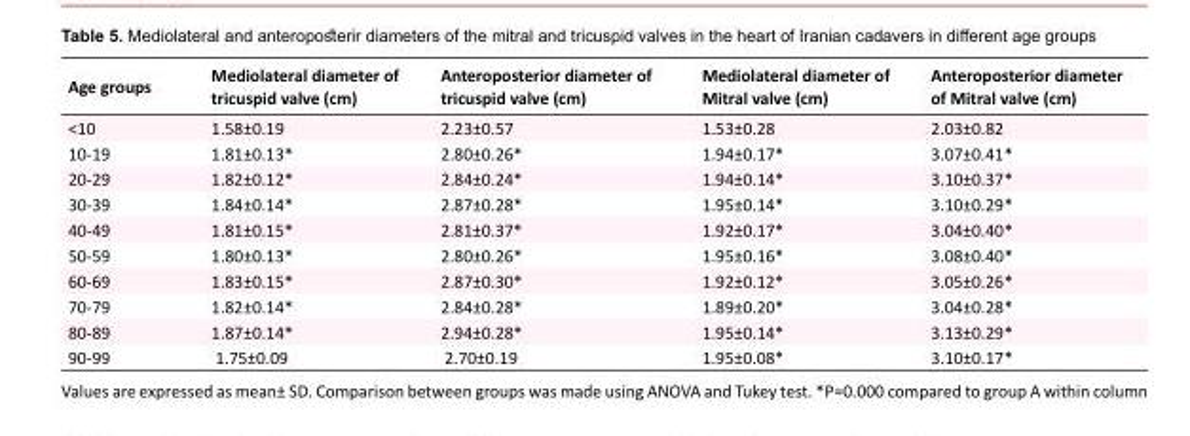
<table><tbody><tr><td>Age groups</td><td>Mediolateral diameter of tricuspid valve (cm)</td><td>Anteroposterior diameter of tricuspid valve (cm)</td><td>Mediolateral diameter of Mitral valve (cm)</td><td>Anteroposterior diameter of Mitral valve (cm)</td></tr><tr><td>&lt;10</td><td>1.58±0.19</td><td>2.23±0.57</td><td>1.53±0.28</td><td>2.03±0.82</td></tr><tr><td>10-19</td><td>1.81±0.13*</td><td>2.80±0.26*</td><td>1.94±0.17*</td><td>3.07±0.41*</td></tr><tr><td>20-29</td><td>1.82±0.12*</td><td>2.84±0.24*</td><td>1.94±0.14*</td><td>3.10±0.37*</td></tr><tr><td>30-39</td><td>1.84±0.14*</td><td>2.87±0.28*</td><td>1.95±0.14*</td><td>3.10±0.29*</td></tr><tr><td>40-49</td><td>1.81±0.15*</td><td>2.81±0.37*</td><td>1.92±0.17*</td><td>3.04±0.40*</td></tr><tr><td>50-59</td><td>1.80±0.13*</td><td>2.80±0.26*</td><td>1.95±0.16*</td><td>3.08±0.40*</td></tr><tr><td>60-69</td><td>1.83±0.15*</td><td>2.87±0.30*</td><td>1.92±0.12*</td><td>3.05±0.26*</td></tr><tr><td>70-79</td><td>1.82±0.14*</td><td>2.84±0.28*</td><td>1.89±0.20*</td><td>3.04±0.28*</td></tr><tr><td>80-89</td><td>1.87±0.14*</td><td>2.94±0.28*</td><td>1.95±0.14*</td><td>3.13±0.29*</td></tr><tr><td>90-99</td><td>1.75±0.09</td><td>2.70±0.19</td><td>1.95±0.08*</td><td>3.10±0.17*</td></tr></tbody></table>